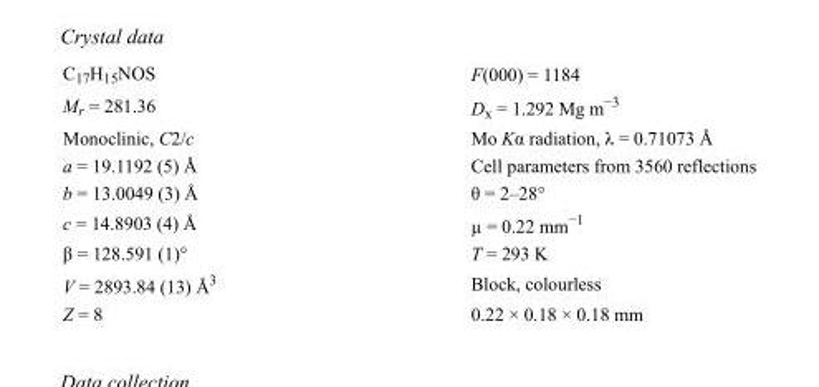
<table><tbody><tr><td>C<sub>17</sub>H<sub>15</sub>NOS</td><td>F(000) = 1184</td></tr><tr><td>M<sub>r</sub> = 281.36</td><td>D<sub>x</sub> = 1.292 Mg m<sup>−3</sup></td></tr><tr><td>Monoclinic, C2/c</td><td>Mo Kα radiation, λ = 0.71073 Å</td></tr><tr><td>a = 19.1192 (5) Å</td><td>Cell parameters from 3560 reflections</td></tr><tr><td>b = 13.0049 (3) Å</td><td>θ = 2–28°</td></tr><tr><td>c = 14.8903 (4) Å</td><td>µ = 0.22 mm<sup>−1</sup></td></tr><tr><td>β = 128.591 (1)°</td><td>T = 293 K</td></tr><tr><td>V = 2893.84 (13) Å<sup>3</sup></td><td>Block, colourless</td></tr><tr><td>Z = 8</td><td>0.22 × 0.18 × 0.18 mm</td></tr></tbody></table>